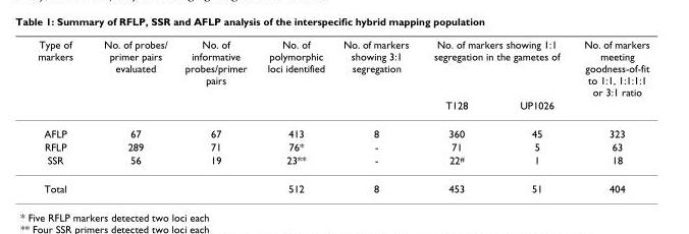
<table><thead><tr><td rowspan="2">Type of markers</td><td rowspan="2">No. of probes/ primer pairs evaluated</td><td rowspan="2">No. of informative probes/primer pairs</td><td rowspan="2">No. of polymorphic loci identified</td><td rowspan="2">No. of markers showing 3:1 segregation</td><td colspan="2">No. of markers showing 1:1 segregation in the gametes of</td><td rowspan="2">No. of markers meeting goodness-of-fit to 1:1, 1:1:1:1 or 3:1 ratio</td></tr><tr><td>T128</td><td>UP1026</td></tr></thead><tbody><tr><td>AFLP</td><td>67</td><td>67</td><td>413</td><td>8</td><td>360</td><td>45</td><td>323</td></tr><tr><td>RFLP</td><td>289</td><td>71</td><td>76*</td><td>-</td><td>71</td><td>5</td><td>63</td></tr><tr><td>SSR</td><td>56</td><td>19</td><td>23**</td><td>-</td><td>22<sup>#</sup></td><td>1</td><td>18</td></tr><tr><td>Total</td><td></td><td></td><td>512</td><td>8</td><td>453</td><td>51</td><td>404</td></tr></tbody></table>